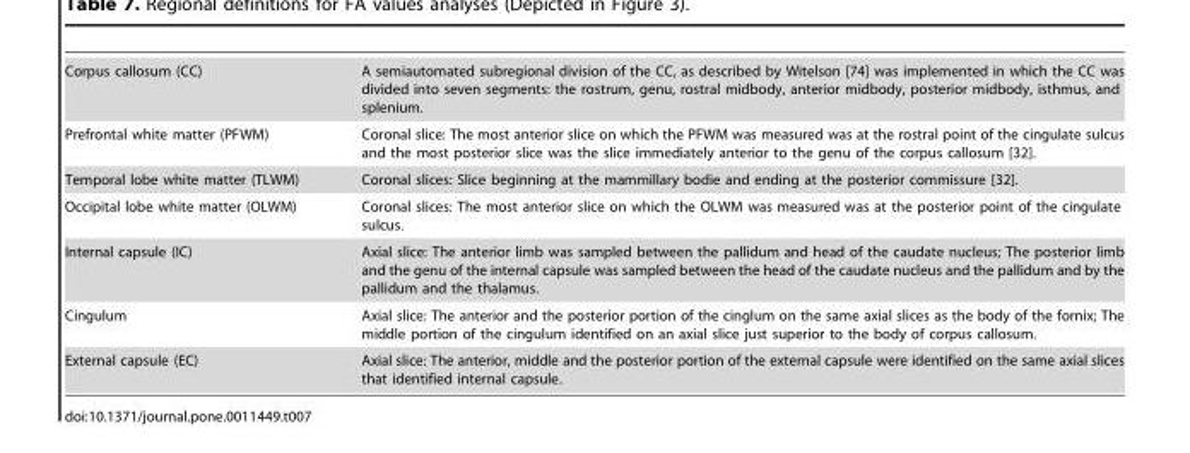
<table><tbody><tr><td>Corpus callosum (CC)</td><td>A semiautomated subregional division of the CC, as described by Witelson [74] was implemented in which the CC was divided into seven segments: the rostrum, genu, rostral midbody, anterior midbody, posterior midbody, isthmus, and splenium.</td></tr><tr><td>Prefrontal white matter (PFWM)</td><td>Coronal slice: The most anterior slice on which the PFWM was measured was at the rostral point of the cingulate sulcus and the most posterior slice was the slice immediately anterior to the genu of the corpus callosum [32].</td></tr><tr><td>Temporal lobe white matter (TLWM)</td><td>Coronal slices: Slice beginning at the mammillary bodie and ending at the posterior commissure [32].</td></tr><tr><td>Occipital lobe white matter (OLWM)</td><td>Coronal slices: The most anterior slice on which the OLWM was measured was at the posterior point of the cingulate sulcus.</td></tr><tr><td>Internal capsule (IC)</td><td>Axial slice: The anterior limb was sampled between the pallidum and head of the caudate nucleus; The posterior limb and the genu of the internal capsule was sampled between the head of the caudate nucleus and the pallidum and by the pallidum and the thalamus.</td></tr><tr><td>Cingulum</td><td>Axial slice: The anterior and the posterior portion of the cinglum on the same axial slices as the body of the fornix; The middle portion of the cingulum identified on an axial slice just superior to the body of corpus callosum.</td></tr><tr><td>External capsule (EC)</td><td>Axial slice: The anterior, middle and the posterior portion of the external capsule were identified on the same axial slices that identified internal capsule.</td></tr></tbody></table>